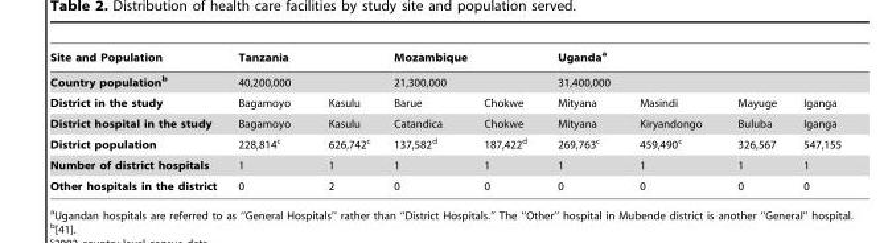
<table><thead><tr><td rowspan="3">Site and Population Country population<sup>b</sup> District in the study</td><td rowspan="2" colspan="2">Tanzania 40,200,000</td><td rowspan="2" colspan="2">Mozambique 21,300,000</td><td rowspan="2" colspan="4">Uganda<sup>a</sup> 31,400,000</td></tr><tr></tr><tr><td>Bagamoyo</td><td>Kasulu</td><td>Barue</td><td>Chokwe</td><td>Mityana</td><td>Masindi</td><td>Mayuge</td><td>Iganga</td></tr></thead><tbody><tr><td>District hospital in the study</td><td>Bagamoyo</td><td>Kasulu</td><td>Catandica</td><td>Chokwe</td><td>Mityana</td><td>Kiryandongo</td><td>Buluba</td><td>Iganga</td></tr><tr><td>District population</td><td>228,814<sup>c</sup></td><td>626,742<sup>c</sup></td><td>137,582<sup>d</sup></td><td>187,422<sup>d</sup></td><td>269,763<sup>c</sup></td><td>459,490<sup>c</sup></td><td>326,567</td><td>547,155</td></tr><tr><td>Number of district hospitals</td><td>1</td><td>1</td><td>1</td><td>1</td><td>1</td><td>1</td><td>1</td><td>1</td></tr><tr><td>Other hospitals in the district</td><td>0</td><td>2</td><td>0</td><td>0</td><td>0</td><td>0</td><td>0</td><td>0</td></tr></tbody></table>